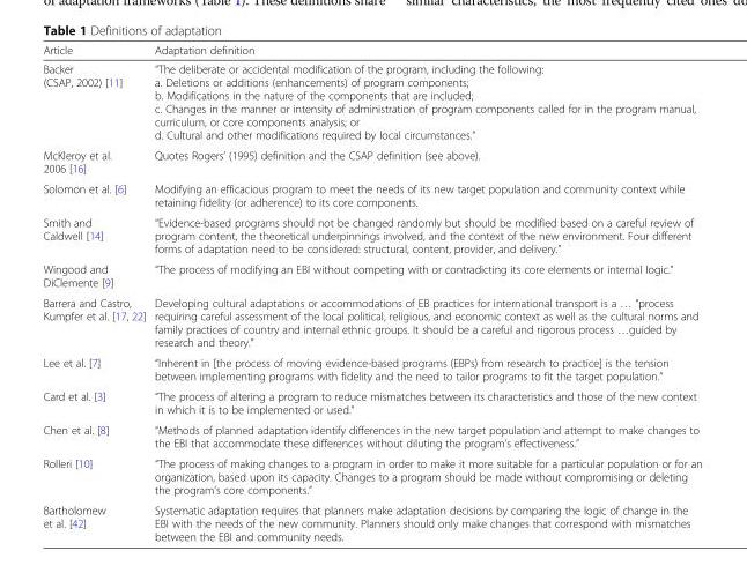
<table><thead><tr><td>Article</td><td>Adaptation definition</td></tr></thead><tbody><tr><td>Backer (CSAP, 2002) [11]</td><td>“The deliberate or accidental modification of the program, including the following: a. Deletions or additions (enhancements) of program components; b. Modifications in the nature of the components that are included; c. Changes in the manner or intensity of administration of program components called for in the program manual, curriculum, or core components analysis; or d. Cultural and other modifications required by local circumstances.”</td></tr><tr><td>McKleroy et al. 2006 [16]</td><td>Quotes Rogers’ (1995) definition and the CSAP definition (see above).</td></tr><tr><td>Solomon et al. [6]</td><td>Modifying an efficacious program to meet the needs of its new target population and community context while retaining fidelity (or adherence) to its core components.</td></tr><tr><td>Smith and Caldwell [14]</td><td>“Evidence-based programs should not be changed randomly but should be modified based on a careful review of program content, the theoretical underpinnings involved, and the context of the new environment. Four different forms of adaptation need to be considered: structural, content, provider, and delivery.”</td></tr><tr><td>Wingood and DiClemente [9]</td><td>“The process of modifying an EBI without competing with or contradicting its core elements or internal logic.”</td></tr><tr><td>Barrera and Castro, Kumpfer et al. [17, 22]</td><td>Developing cultural adaptations or accommodations of EB practices for international transport is a … “process requiring careful assessment of the local political, religious, and economic context as well as the cultural norms and family practices of country and internal ethnic groups. It should be a careful and rigorous process …guided by research and theory.”</td></tr><tr><td>Lee et al. [7]</td><td>“Inherent in [the process of moving evidence-based programs (EBPs) from research to practice] is the tension between implementing programs with fidelity and the need to tailor programs to fit the target population.”</td></tr><tr><td>Card et al. [3]</td><td>“The process of altering a program to reduce mismatches between its characteristics and those of the new context in which it is to be implemented or used.”</td></tr><tr><td>Chen et al. [8]</td><td>“Methods of planned adaptation identify differences in the new target population and attempt to make changes to the EBI that accommodate these differences without diluting the program’s effectiveness.”</td></tr><tr><td>Rolleri [10]</td><td>“The process of making changes to a program in order to make it more suitable for a particular population or for an organization, based upon its capacity. Changes to a program should be made without compromising or deleting the program’s core components.”</td></tr><tr><td>Bartholomew et al. [42]</td><td>Systematic adaptation requires that planners make adaptation decisions by comparing the logic of change in the EBI with the needs of the new community. Planners should only make changes that correspond with mismatches between the EBI and community needs.</td></tr></tbody></table>